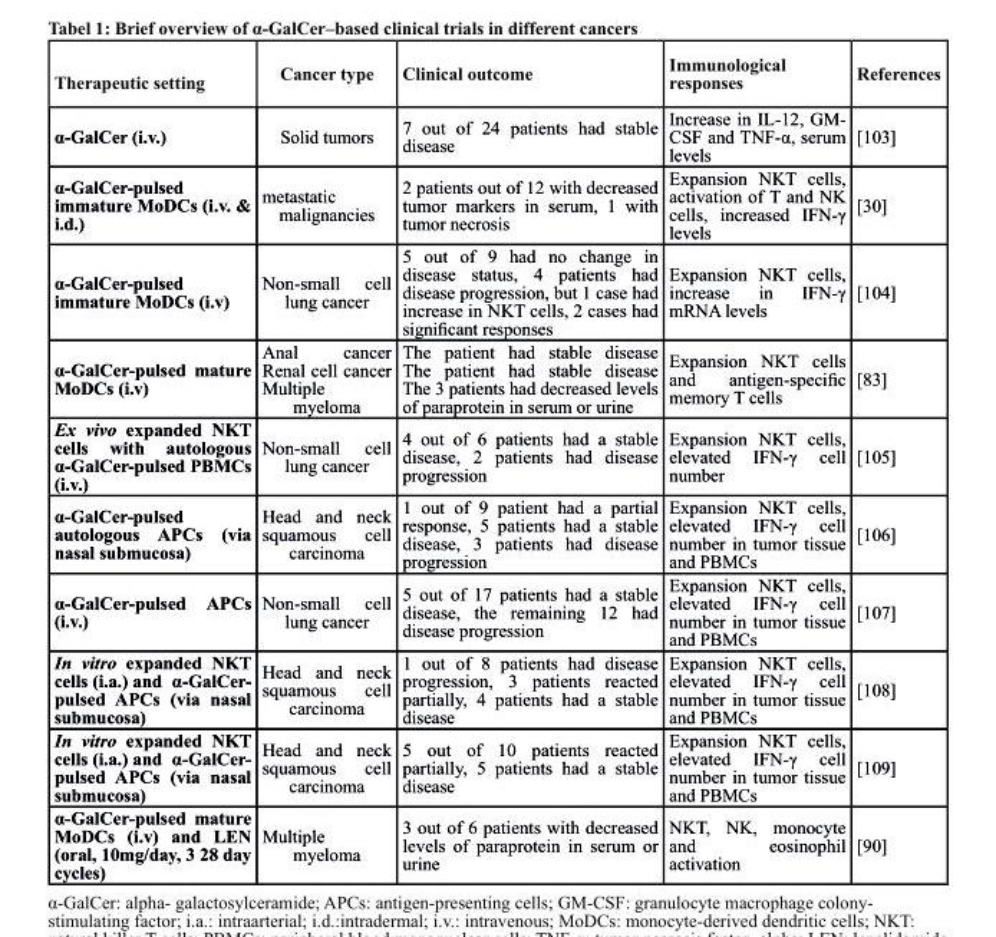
<table><thead><tr><td>therapeutic setting</td><td>cancer type</td><td>clinical outcome</td><td>immunological responses</td><td>references</td></tr></thead><tbody><tr><td>α-GalCer (i.v.)</td><td>Solid tumors</td><td>7 out of 24 patients had stable disease</td><td>Increase in IL-12, GM- CSF and TNF-α, serum levels</td><td>[103]</td></tr><tr><td>α-GalCer-pulsed immature Modcs (i.v. &amp; i.d.)</td><td>metastatic malignancies</td><td>2 patients out of 12 with decreased tumor markers in serum, 1 with tumor necrosis</td><td>Expansion NKT cells, activation of T and NK cells, increased IFN-γ levels</td><td>[30]</td></tr><tr><td>α-GalCer-pulsed immature Modcs (i.v)</td><td>Non-small cell lung cancer</td><td>5 out of 9 had no change in disease status, 4 patients had disease progression, but 1 case had increase in NKT cells, 2 cases had significant responses</td><td>Expansion NKT cells, increase in IFN-γ mRNA levels</td><td>[104]</td></tr><tr><td>α-GalCer-pulsed mature Modcs (i.v)</td><td>Anal cancer Renal cell cancer Multiple myeloma</td><td>The patient had stable disease The patient had stable disease The 3 patients had decreased levels of paraprotein in serum or urine</td><td>Expansion NKT cells and antigen-specific memory T cells</td><td>[83]</td></tr><tr><td>Ex vivo expanded Nkt cells with autologous α-GalCer-pulsed PBMCs (i.v.)</td><td>Non-small cell lung cancer</td><td>4 out of 6 patients had a stable disease, 2 patients had disease progression</td><td>Expansion NKT cells, elevated IFN-γ cell number</td><td>[105]</td></tr><tr><td>α-GalCer-pulsed autologous Apcs (via nasal submucosa)</td><td>Head and neck squamous cell carcinoma</td><td>1 out of 9 patient had a partial response, 5 patients had a stable disease, 3 patients had disease progression</td><td>Expansion NKT cells, elevated IFN-γ cell number in tumor tissue and PBMCs</td><td>[106]</td></tr><tr><td>α-GalCer-pulsed APCs (i.v.)</td><td>Non-small cell lung cancer</td><td>5 out of 17 patients had a stable disease, the remaining 12 had disease progression</td><td>Expansion NKT cells, elevated IFN-γ cell number in tumor tissue and PBMCs</td><td>[107]</td></tr><tr><td>In vitro expanded Nkt cells (i.a.) and α-GalCer- pulsed Apcs (via nasal submucosa)</td><td>Head and neck squamous cell carcinoma</td><td>1 out of 8 patients had disease progression, 3 patients reacted partially, 4 patients had a stable disease</td><td>Expansion NKT cells, elevated IFN-γ cell number in tumor tissue and PBMCs</td><td>[108]</td></tr><tr><td>In vitro expanded Nkt cells (i.a.) and α-GalCer- pulsed Apcs (via nasal submucosa)</td><td>Head and neck squamous cell carcinoma</td><td>5 out of 10 patients reacted partially, 5 patients had a stable disease</td><td>Expansion NKT cells, elevated IFN-γ cell number in tumor tissue and PBMCs</td><td>[109]</td></tr><tr><td>α-GalCer-pulsed mature Modcs (i.v) and leN (oral, 10mg/day, 3 28 day cycles)</td><td>Multiple myeloma</td><td>3 out of 6 patients with decreased levels of paraprotein in serum or urine</td><td>NKT, NK, monocyte and eosinophil activation</td><td>[90]</td></tr></tbody></table>